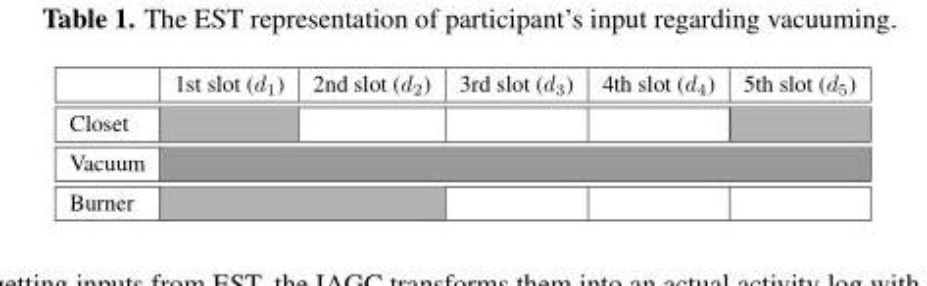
<table><thead><tr><td></td><td>1st slot (d<sub>1</sub>)</td><td>2nd slot (d<sub>2</sub>)</td><td>3rd slot (d<sub>3</sub>)</td><td>4th slot (d<sub>4</sub>)</td><td>5th slot (d<sub>5</sub>)</td></tr></thead><tbody><tr><td colspan="6">Closet</td></tr><tr><td colspan="6">Vacuum</td></tr><tr><td>Burner</td><td colspan="2"></td><td></td><td></td><td></td></tr></tbody></table>